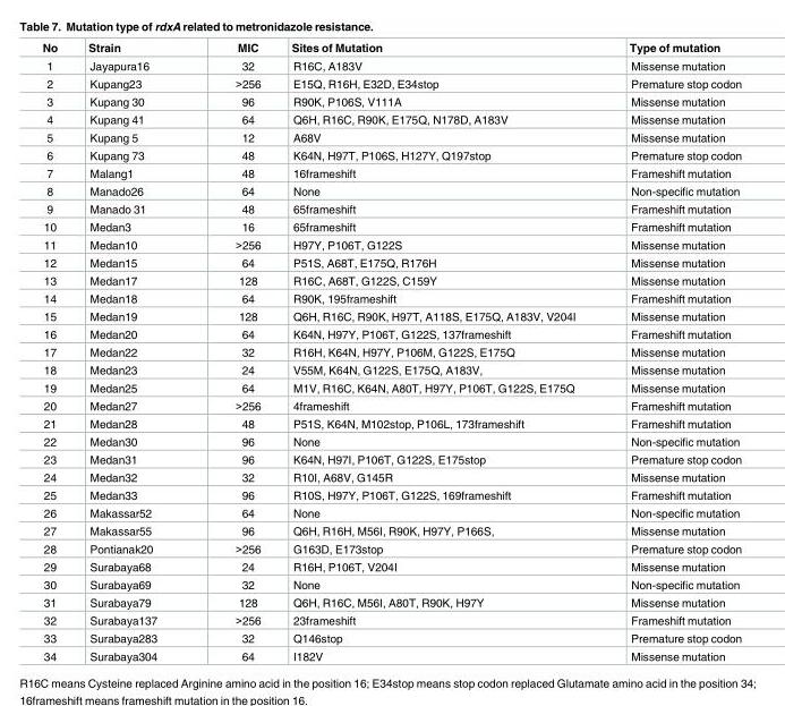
<table><thead><tr><td>No</td><td>Strain</td><td>MIC</td><td>Sites of Mutation</td><td>Type of mutation</td></tr></thead><tbody><tr><td>1</td><td>Jayapura16</td><td>32</td><td>R16C, A183V</td><td>Missense mutation</td></tr><tr><td>2</td><td>Kupang23</td><td>&gt;256</td><td>E15Q, R16H, E32D, E34stop</td><td>Premature stop codon</td></tr><tr><td>3</td><td>Kupang 30</td><td>96</td><td>R90K, P106S, V111A</td><td>Missense mutation</td></tr><tr><td>4</td><td>Kupang 41</td><td>64</td><td>Q6H, R16C, R90K, E175Q, N178D, A183V</td><td>Missense mutation</td></tr><tr><td>5</td><td>Kupang 5</td><td>12</td><td>A68V</td><td>Missense mutation</td></tr><tr><td>6</td><td>Kupang 73</td><td>48</td><td>K64N, H97T, P106S, H127Y, Q197stop</td><td>Premature stop codon</td></tr><tr><td>7</td><td>Malang1</td><td>48</td><td>16frameshift</td><td>Frameshift mutation</td></tr><tr><td>8</td><td>Manado26</td><td>64</td><td>None</td><td>Non-specific mutation</td></tr><tr><td>9</td><td>Manado 31</td><td>48</td><td>65frameshift</td><td>Frameshift mutation</td></tr><tr><td>10</td><td>Medan3</td><td>16</td><td>65frameshift</td><td>Frameshift mutation</td></tr><tr><td>11</td><td>Medan10</td><td>&gt;256</td><td>H97Y, P106T, G122S</td><td>Missense mutation</td></tr><tr><td>12</td><td>Medan15</td><td>64</td><td>P51S, A68T, E175Q, R176H</td><td>Missense mutation</td></tr><tr><td>13</td><td>Medan17</td><td>128</td><td>R16C, A68T, G122S, C159Y</td><td>Missense mutation</td></tr><tr><td>14</td><td>Medan18</td><td>64</td><td>R90K, 195frameshift</td><td>Frameshift mutation</td></tr><tr><td>15</td><td>Medan19</td><td>128</td><td>Q6H, R16C, R90K, H97T, A118S, E175Q, A183V, V204I</td><td>Missense mutation</td></tr><tr><td>16</td><td>Medan20</td><td>64</td><td>K64N, H97Y, P106T, G122S, 137frameshift</td><td>Frameshift mutation</td></tr><tr><td>17</td><td>Medan22</td><td>32</td><td>R16H, K64N, H97Y, P106M, G122S, E175Q</td><td>Missense mutation</td></tr><tr><td>18</td><td>Medan23</td><td>24</td><td>V55M, K64N, G122S, E175Q, A183V,</td><td>Missense mutation</td></tr><tr><td>19</td><td>Medan25</td><td>64</td><td>M1V, R16C, K64N, A80T, H97Y, P106T, G122S, E175Q</td><td>Missense mutation</td></tr><tr><td>20</td><td>Medan27</td><td>&gt;256</td><td>4frameshift</td><td>Frameshift mutation</td></tr><tr><td>21</td><td>Medan28</td><td>48</td><td>P51S, K64N, M102stop, P106L, 173frameshift</td><td>Frameshift mutation</td></tr><tr><td>22</td><td>Medan30</td><td>96</td><td>None</td><td>Non-specific mutation</td></tr><tr><td>23</td><td>Medan31</td><td>96</td><td>K64N, H97I, P106T, G122S, E175stop</td><td>Premature stop codon</td></tr><tr><td>24</td><td>Medan32</td><td>32</td><td>R10I, A68V, G145R</td><td>Missense mutation</td></tr><tr><td>25</td><td>Medan33</td><td>96</td><td>R10S, H97Y, P106T, G122S, 169frameshift</td><td>Frameshift mutation</td></tr><tr><td>26</td><td>Makassar52</td><td>64</td><td>None</td><td>Non-specific mutation</td></tr><tr><td>27</td><td>Makassar55</td><td>96</td><td>Q6H, R16H, M56I, R90K, H97Y, P166S,</td><td>Missense mutation</td></tr><tr><td>28</td><td>Pontianak20</td><td>&gt;256</td><td>G163D, E173stop</td><td>Premature stop codon</td></tr><tr><td>29</td><td>Surabaya68</td><td>24</td><td>R16H, P106T, V204I</td><td>Missense mutation</td></tr><tr><td>30</td><td>Surabaya69</td><td>32</td><td>None</td><td>Non-specific mutation</td></tr><tr><td>31</td><td>Surabaya79</td><td>128</td><td>Q6H, R16C, M56I, A80T, R90K, H97Y</td><td>Missense mutation</td></tr><tr><td>32</td><td>Surabaya137</td><td>&gt;256</td><td>23frameshift</td><td>Frameshift mutation</td></tr><tr><td>33</td><td>Surabaya283</td><td>32</td><td>Q146stop</td><td>Premature stop codon</td></tr><tr><td>34</td><td>Surabaya304</td><td>64</td><td>I182V</td><td>Missense mutation</td></tr></tbody></table>